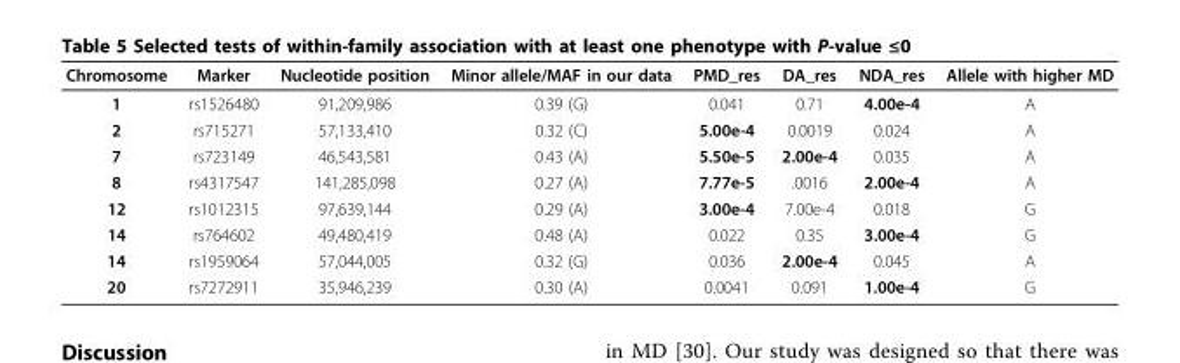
<table><thead><tr><td>Chromosome</td><td>Marker</td><td>Nucleotide position</td><td>Minor allele/MAF in our data</td><td>PMD_res</td><td>DA_res</td><td>NDA_res</td><td>Allele with higher MD</td></tr></thead><tbody><tr><td>1</td><td>rs1526480</td><td>91,209,986</td><td>0.39 (G)</td><td>0.041</td><td>0.71</td><td>4.00e-4</td><td>A</td></tr><tr><td>2</td><td>rs715271</td><td>57,133,410</td><td>0.32 (C)</td><td>5.00e-4</td><td>0.0019</td><td>0.024</td><td>A</td></tr><tr><td>7</td><td>rs723149</td><td>46,543,581</td><td>0.43 (A)</td><td>5.50e-5</td><td>2.00e-4</td><td>0.035</td><td>A</td></tr><tr><td>8</td><td>rs4317547</td><td>141,285,098</td><td>0.27 (A)</td><td>7.77e-5</td><td>.0016</td><td>2.00e-4</td><td>A</td></tr><tr><td>12</td><td>rs1012315</td><td>97,639,144</td><td>0.29 (A)</td><td>3.00e-4</td><td>7.00e-4</td><td>0.018</td><td>G</td></tr><tr><td>14</td><td>rs764602</td><td>49,480,419</td><td>0.48 (A)</td><td>0.022</td><td>0.35</td><td>3.00e-4</td><td>G</td></tr><tr><td>14</td><td>rs1959064</td><td>57,044,005</td><td>0.32 (G)</td><td>0.036</td><td>2.00e-4</td><td>0.045</td><td>A</td></tr><tr><td>20</td><td>rs7272911</td><td>35,946,239</td><td>0.30 (A)</td><td>0.0041</td><td>0.091</td><td>1.00e-4</td><td>G</td></tr></tbody></table>